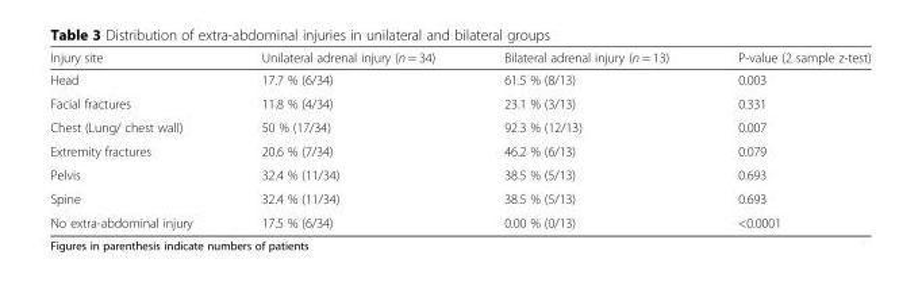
<table><thead><tr><td>Injury site</td><td>Unilateral adrenal injury (n = 34)</td><td>Bilateral adrenal injury (n = 13)</td><td>P-value (2 sample z-test)</td></tr></thead><tbody><tr><td>Head</td><td>17.7 % (6/34)</td><td>61.5 % (8/13)</td><td>0.003</td></tr><tr><td>Facial fractures</td><td>11.8 % (4/34)</td><td>23.1 % (3/13)</td><td>0.331</td></tr><tr><td>Chest (Lung/ chest wall)</td><td>50 % (17/34)</td><td>92.3 % (12/13)</td><td>0.007</td></tr><tr><td>Extremity fractures</td><td>20.6 % (7/34)</td><td>46.2 % (6/13)</td><td>0.079</td></tr><tr><td>Pelvis</td><td>32.4 % (11/34)</td><td>38.5 % (5/13)</td><td>0.693</td></tr><tr><td>Spine</td><td>32.4 % (11/34)</td><td>38.5 % (5/13)</td><td>0.693</td></tr><tr><td>No extra-abdominal injury</td><td>17.5 % (6/34)</td><td>0.00 % (0/13)</td><td>&lt;0.0001</td></tr></tbody></table>